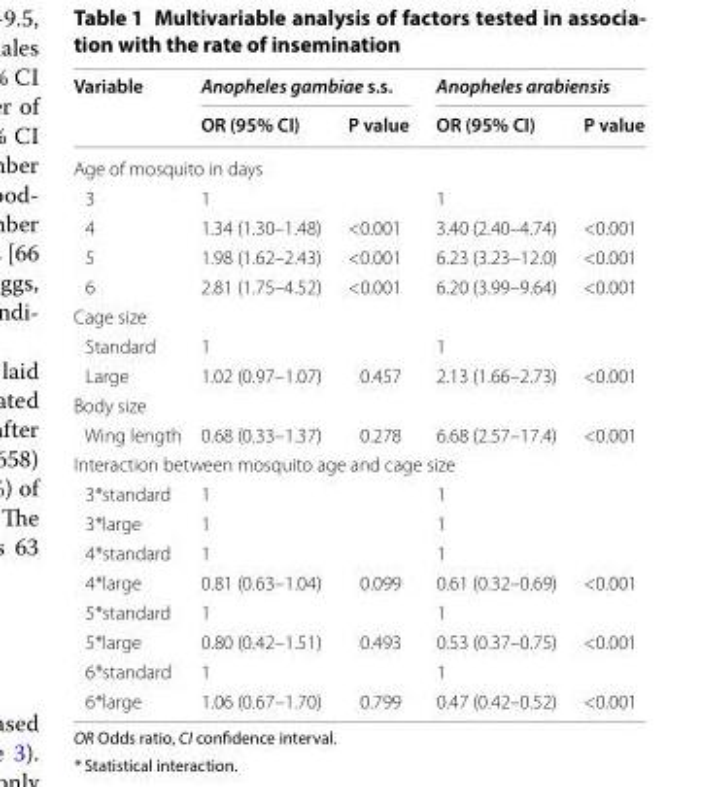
<table><thead><tr><td rowspan="2">Variable</td><td colspan="2">Anopheles gambiae s.s.</td><td colspan="2">Anopheles arabiensis</td></tr><tr><td>OR (95% CI)</td><td>P value</td><td>OR (95% CI)</td><td>P value</td></tr></thead><tbody><tr><td colspan="5">Age of mosquito in days</td></tr><tr><td>3</td><td>1</td><td></td><td>1</td><td></td></tr><tr><td>4</td><td>1.34 (1.30–1.48)</td><td>&lt;0.001</td><td>3.40 (2.40–4.74)</td><td>&lt;0.001</td></tr><tr><td>5</td><td>1.98 (1.62–2.43)</td><td>&lt;0.001</td><td>6.23 (3.23–12.0)</td><td>&lt;0.001</td></tr><tr><td>6</td><td>2.81 (1.75–4.52)</td><td>&lt;0.001</td><td>6.20 (3.99–9.64)</td><td>&lt;0.001</td></tr><tr><td colspan="5">Cage size</td></tr><tr><td>Standard</td><td>1</td><td></td><td>1</td><td></td></tr><tr><td>Large</td><td>1.02 (0.97–1.07)</td><td>0.457</td><td>2.13 (1.66–2.73)</td><td>&lt;0.001</td></tr><tr><td colspan="5">Body size</td></tr><tr><td>Wing length</td><td>0.68 (0.33–1.37)</td><td>0.278</td><td>6.68 (2.57–17.4)</td><td>&lt;0.001</td></tr><tr><td colspan="5">Interaction between mosquito age and cage size</td></tr><tr><td>3*standard</td><td>1</td><td></td><td>1</td><td></td></tr><tr><td>3*large</td><td>1</td><td></td><td>1</td><td></td></tr><tr><td>4*standard</td><td>1</td><td></td><td>1</td><td></td></tr><tr><td>4*large</td><td>0.81 (0.63–1.04)</td><td>0.099</td><td>0.61 (0.32–0.69)</td><td>&lt;0.001</td></tr><tr><td>5*standard</td><td>1</td><td></td><td>1</td><td></td></tr><tr><td>5*large</td><td>0.80 (0.42–1.51)</td><td>0.493</td><td>0.53 (0.37–0.75)</td><td>&lt;0.001</td></tr><tr><td>6*standard</td><td>1</td><td></td><td>1</td><td></td></tr><tr><td>6*large</td><td>1.06 (0.67–1.70)</td><td>0.799</td><td>0.47 (0.42–0.52)</td><td>&lt;0.001</td></tr></tbody></table>